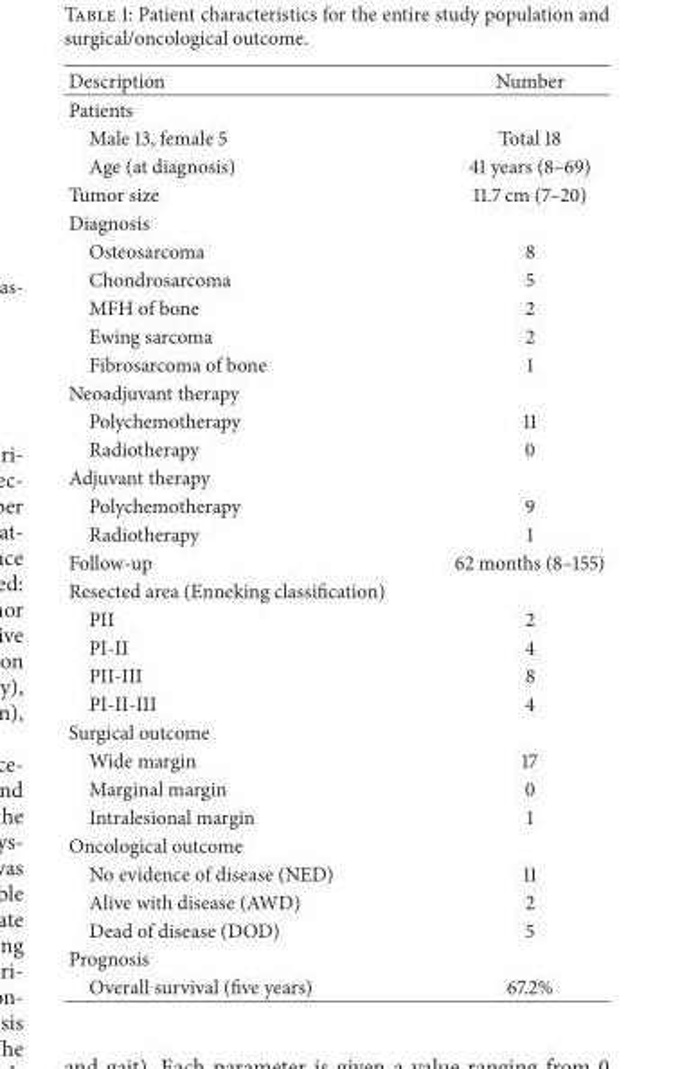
<table><thead><tr><td>Description</td><td>Number</td></tr></thead><tbody><tr><td colspan="2">Patients</td></tr><tr><td>Male 13, female 5</td><td>Total 18</td></tr><tr><td>Age (at diagnosis)</td><td>41 years (8–69)</td></tr><tr><td>Tumor size</td><td>11.7 cm (7–20)</td></tr><tr><td colspan="2">Diagnosis</td></tr><tr><td>Osteosarcoma</td><td>8</td></tr><tr><td>Chondrosarcoma</td><td>5</td></tr><tr><td>MFH of bone</td><td>2</td></tr><tr><td>Ewing sarcoma</td><td>2</td></tr><tr><td>Fibrosarcoma of bone</td><td>1</td></tr><tr><td colspan="2">Neoadjuvant therapy</td></tr><tr><td>Polychemotherapy</td><td>11</td></tr><tr><td>Radiotherapy</td><td>0</td></tr><tr><td colspan="2">Adjuvant therapy</td></tr><tr><td>Polychemotherapy</td><td>9</td></tr><tr><td>Radiotherapy</td><td>1</td></tr><tr><td>Follow-up</td><td>62 months (8–155)</td></tr><tr><td colspan="2">Resected area (Enneking classification)</td></tr><tr><td>PII</td><td>2</td></tr><tr><td>PI-II</td><td>4</td></tr><tr><td>PII-III</td><td>8</td></tr><tr><td>PI-II-III</td><td>4</td></tr><tr><td colspan="2">Surgical outcome</td></tr><tr><td>Wide margin</td><td>17</td></tr><tr><td>Marginal margin</td><td>0</td></tr><tr><td>Intralesional margin</td><td>1</td></tr><tr><td colspan="2">Oncological outcome</td></tr><tr><td>No evidence of disease (NED)</td><td>11</td></tr><tr><td>Alive with disease (AWD)</td><td>2</td></tr><tr><td>Dead of disease (DOD)</td><td>5</td></tr><tr><td colspan="2">Prognosis</td></tr><tr><td>Overall survival (five years)</td><td>67.2%</td></tr></tbody></table>